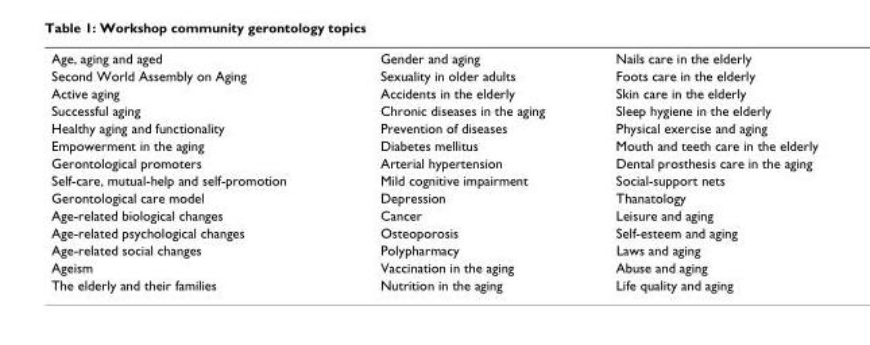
<table><tbody><tr><td>Age, aging and aged</td><td>Gender and aging</td><td>Nails care in the elderly</td></tr><tr><td>Second World Assembly on Aging</td><td>Sexuality in older adults</td><td>Foots care in the elderly</td></tr><tr><td>Active aging</td><td>Accidents in the elderly</td><td>Skin care in the elderly</td></tr><tr><td>Successful aging</td><td>Chronic diseases in the aging</td><td>Sleep hygiene in the elderly</td></tr><tr><td>Healthy aging and functionality</td><td>Prevention of diseases</td><td>Physical exercise and aging</td></tr><tr><td>Empowerment in the aging</td><td>Diabetes mellitus</td><td>Mouth and teeth care in the elderly</td></tr><tr><td>Gerontological promoters</td><td>Arterial hypertension</td><td>Dental prosthesis care in the aging</td></tr><tr><td>Self-care, mutual-help and self-promotion</td><td>Mild cognitive impairment</td><td>Social-support nets</td></tr><tr><td>Gerontological care model</td><td>Depression</td><td>Thanatology</td></tr><tr><td>Age-related biological changes</td><td>Cancer</td><td>Leisure and aging</td></tr><tr><td>Age-related psychological changes</td><td>Osteoporosis</td><td>Self-esteem and aging</td></tr><tr><td>Age-related social changes</td><td>Polypharmacy</td><td>Laws and aging</td></tr><tr><td>Ageism</td><td>Vaccination in the aging</td><td>Abuse and aging</td></tr><tr><td>The elderly and their families</td><td>Nutrition in the aging</td><td>Life quality and aging</td></tr></tbody></table>